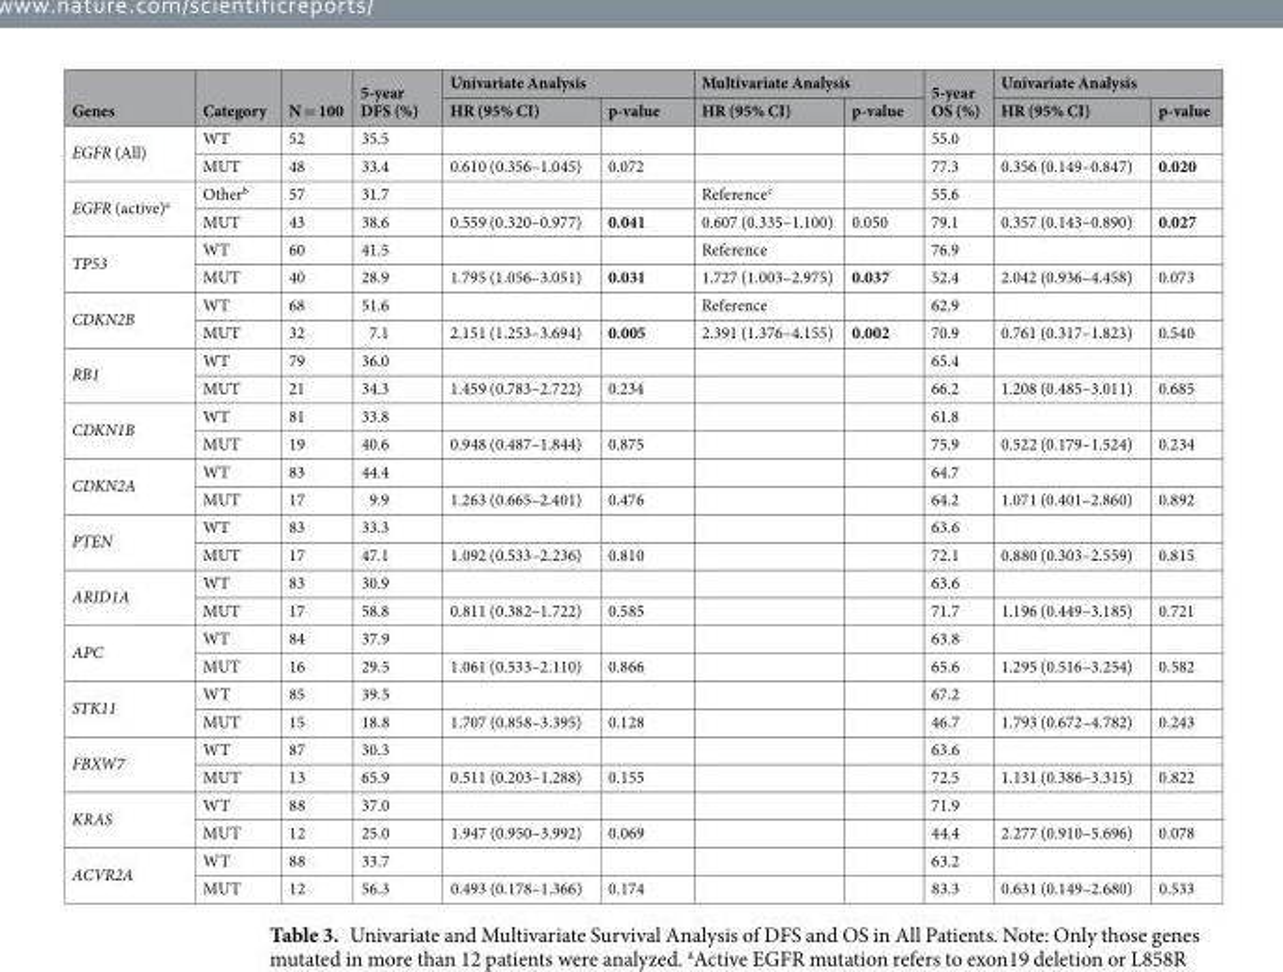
<table><thead><tr><td rowspan="2">Genes</td><td rowspan="2">Category</td><td rowspan="2">N = 100</td><td rowspan="2">5-year DFS (%)</td><td colspan="2">Univariate Analysis</td><td colspan="2">Multivariate Analysis</td><td rowspan="2">5-year OS (%)</td><td colspan="2">Univariate Analysis</td></tr><tr><td>HR (95% CI)</td><td>p-value</td><td>HR (95% CI)</td><td>p-value</td><td>HR (95% CI)</td><td>p-value</td></tr></thead><tbody><tr><td rowspan="2">EGFR (All)</td><td>WT</td><td>52</td><td>35.5</td><td></td><td></td><td></td><td></td><td>55.0</td><td></td><td></td></tr><tr><td>MUT</td><td>48</td><td>33.4</td><td>0.610 (0.356–1.045)</td><td>0.072</td><td></td><td></td><td>77.3</td><td>0.356 (0.149–0.847)</td><td>0.020</td></tr><tr><td rowspan="2">EGFR (active)<sup>a</sup></td><td>Other<sup>b</sup></td><td>57</td><td>31.7</td><td></td><td></td><td>Reference<sup>c</sup></td><td></td><td>55.6</td><td></td><td></td></tr><tr><td>MUT</td><td>43</td><td>38.6</td><td>0.559 (0.320–0.977)</td><td>0.041</td><td>0.607 (0.335–1.100)</td><td>0.050</td><td>79.1</td><td>0.357 (0.143–0.890)</td><td>0.027</td></tr><tr><td rowspan="2">TP53</td><td>WT</td><td>60</td><td>41.5</td><td></td><td></td><td>Reference</td><td></td><td>76.9</td><td></td><td></td></tr><tr><td>MUT</td><td>40</td><td>28.9</td><td>1.795 (1.056–3.051)</td><td>0.031</td><td>1.727 (1.003–2.975)</td><td>0.037</td><td>52.4</td><td>2.042 (0.936–4.458)</td><td>0.073</td></tr><tr><td rowspan="2">CDKN2B</td><td>WT</td><td>68</td><td>51.6</td><td></td><td></td><td>Reference</td><td></td><td>62.9</td><td></td><td></td></tr><tr><td>MUT</td><td>32</td><td>7.1</td><td>2.151 (1.253–3.694)</td><td>0.005</td><td>2.391 (1.376–4.155)</td><td>0.002</td><td>70.9</td><td>0.761 (0.317–1.823)</td><td>0.540</td></tr><tr><td rowspan="2">RB1</td><td>WT</td><td>79</td><td>36.0</td><td></td><td></td><td></td><td></td><td>65.4</td><td></td><td></td></tr><tr><td>MUT</td><td>21</td><td>34.3</td><td>1.459 (0.783–2.722)</td><td>0.234</td><td></td><td></td><td>66.2</td><td>1.208 (0.485–3.011)</td><td>0.685</td></tr><tr><td rowspan="2">CDKN1B</td><td>WT</td><td>81</td><td>33.8</td><td></td><td></td><td></td><td></td><td>61.8</td><td></td><td></td></tr><tr><td>MUT</td><td>19</td><td>40.6</td><td>0.948 (0.487–1.844)</td><td>0.875</td><td></td><td></td><td>75.9</td><td>0.522 (0.179–1.524)</td><td>0.234</td></tr><tr><td rowspan="2">CDKN2A</td><td>WT</td><td>83</td><td>44.4</td><td></td><td></td><td></td><td></td><td>64.7</td><td></td><td></td></tr><tr><td>MUT</td><td>17</td><td>9.9</td><td>1.263 (0.665–2.401)</td><td>0.476</td><td></td><td></td><td>64.2</td><td>1.071 (0.401–2.860)</td><td>0.892</td></tr><tr><td rowspan="2">PTEN</td><td>WT</td><td>83</td><td>33.3</td><td></td><td></td><td></td><td></td><td>63.6</td><td></td><td></td></tr><tr><td>MUT</td><td>17</td><td>47.1</td><td>1.092 (0.533–2.236)</td><td>0.810</td><td></td><td></td><td>72.1</td><td>0.880 (0.303–2.559)</td><td>0.815</td></tr><tr><td rowspan="2">ARID1A</td><td>WT</td><td>83</td><td>30.9</td><td></td><td></td><td></td><td></td><td>63.6</td><td></td><td></td></tr><tr><td>MUT</td><td>17</td><td>58.8</td><td>0.811 (0.382–1.722)</td><td>0.585</td><td></td><td></td><td>71.7</td><td>1.196 (0.449–3.185)</td><td>0.721</td></tr><tr><td rowspan="2">APC</td><td>WT</td><td>84</td><td>37.9</td><td></td><td></td><td></td><td></td><td>63.8</td><td></td><td></td></tr><tr><td>MUT</td><td>16</td><td>29.5</td><td>1.061 (0.533–2.110)</td><td>0.866</td><td></td><td></td><td>65.6</td><td>1.295 (0.516–3.254)</td><td>0.582</td></tr><tr><td rowspan="2">STK11</td><td>WT</td><td>85</td><td>39.5</td><td></td><td></td><td></td><td></td><td>67.2</td><td></td><td></td></tr><tr><td>MUT</td><td>15</td><td>18.8</td><td>1.707 (0.858–3.395)</td><td>0.128</td><td></td><td></td><td>46.7</td><td>1.793 (0.672–4.782)</td><td>0.243</td></tr><tr><td rowspan="2">FBXW7</td><td>WT</td><td>87</td><td>30.3</td><td></td><td></td><td></td><td></td><td>63.6</td><td></td><td></td></tr><tr><td>MUT</td><td>13</td><td>65.9</td><td>0.511 (0.203–1.288)</td><td>0.155</td><td></td><td></td><td>72.5</td><td>1.131 (0.386–3.315)</td><td>0.822</td></tr><tr><td rowspan="2">KRAS</td><td>WT</td><td>88</td><td>37.0</td><td></td><td></td><td></td><td></td><td>71.9</td><td></td><td></td></tr><tr><td>MUT</td><td>12</td><td>25.0</td><td>1.947 (0.950–3.992)</td><td>0.069</td><td></td><td></td><td>44.4</td><td>2.277 (0.910–5.696)</td><td>0.078</td></tr><tr><td rowspan="2">ACVR2A</td><td>WT</td><td>88</td><td>33.7</td><td></td><td></td><td></td><td></td><td>63.2</td><td></td><td></td></tr><tr><td>MUT</td><td>12</td><td>56.3</td><td>0.493 (0.178–1.366)</td><td>0.174</td><td></td><td></td><td>83.3</td><td>0.631 (0.149–2.680)</td><td>0.533</td></tr></tbody></table>